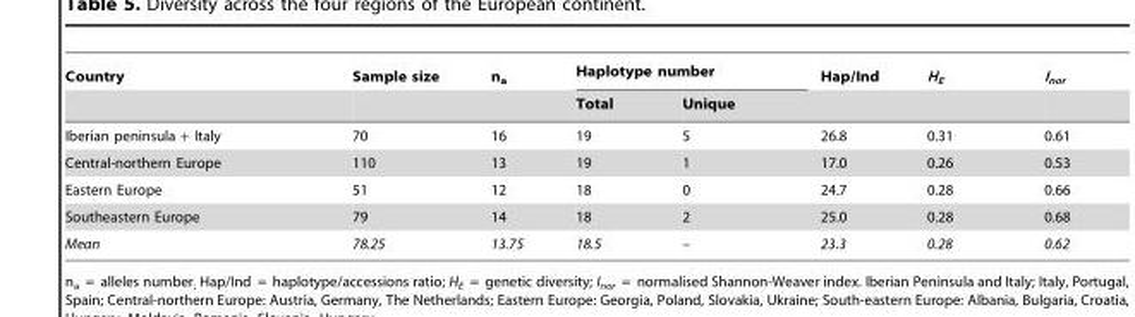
<table><thead><tr><td rowspan="2">Country</td><td rowspan="2">Sample size</td><td rowspan="2">n<sub>a</sub></td><td colspan="2">Haplotype number</td><td rowspan="2">Hap/Ind</td><td rowspan="2">H<sub>E</sub></td><td rowspan="2">I<sub>nor</sub></td></tr><tr><td>Total</td><td>Unique</td></tr></thead><tbody><tr><td>Iberian peninsula + Italy</td><td>70</td><td>16</td><td>19</td><td>5</td><td>26.8</td><td>0.31</td><td>0.61</td></tr><tr><td>Central-northern Europe</td><td>110</td><td>13</td><td>19</td><td>1</td><td>17.0</td><td>0.26</td><td>0.53</td></tr><tr><td>Eastern Europe</td><td>51</td><td>12</td><td>18</td><td>0</td><td>24.7</td><td>0.28</td><td>0.66</td></tr><tr><td>Southeastern Europe</td><td>79</td><td>14</td><td>18</td><td>2</td><td>25.0</td><td>0.28</td><td>0.68</td></tr><tr><td>Mean</td><td>78.25</td><td>13.75</td><td>18.5</td><td>–</td><td>23.3</td><td>0.28</td><td>0.62</td></tr></tbody></table>